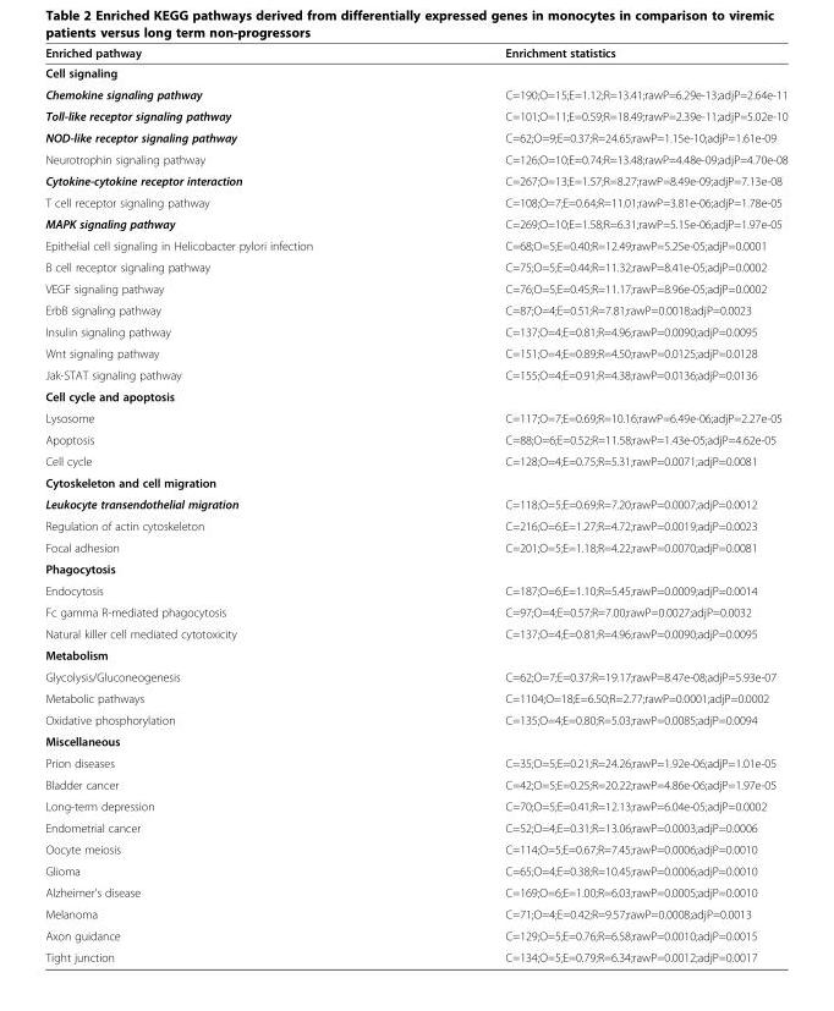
<table><thead><tr><td>Enriched pathway</td><td>Enrichment statistics</td></tr></thead><tbody><tr><td colspan="2">Cell signaling</td></tr><tr><td>Chemokine signaling pathway</td><td>C=190;O=15;E=1.12;R=13.41;rawP=6.29e-13;adjP=2.64e-11</td></tr><tr><td>Toll-like receptor signaling pathway</td><td>C=101;O=11;E=0.59;R=18.49;rawP=2.39e-11;adjP=5.02e-10</td></tr><tr><td>NOD-like receptor signaling pathway</td><td>C=62;O=9;E=0.37;R=24.65;rawP=1.15e-10;adjP=1.61e-09</td></tr><tr><td>Neurotrophin signaling pathway</td><td>C=126;O=10;E=0.74;R=13.48;rawP=4.48e-09;adjP=4.70e-08</td></tr><tr><td>Cytokine-cytokine receptor interaction</td><td>C=267;O=13;E=1.57;R=8.27;rawP=8.49e-09;adjP=7.13e-08</td></tr><tr><td>T cell receptor signaling pathway</td><td>C=108;O=7;E=0.64;R=11.01;rawP=3.81e-06;adjP=1.78e-05</td></tr><tr><td>MAPK signaling pathway</td><td>C=269;O=10;E=1.58;R=6.31;rawP=5.15e-06;adjP=1.97e-05</td></tr><tr><td>Epithelial cell signaling in Helicobacter pylori infection</td><td>C=68;O=5;E=0.40;R=12.49;rawP=5.25e-05;adjP=0.0001</td></tr><tr><td>B cell receptor signaling pathway</td><td>C=75;O=5;E=0.44;R=11.32;rawP=8.41e-05;adjP=0.0002</td></tr><tr><td>VEGF signaling pathway</td><td>C=76;O=5;E=0.45;R=11.17;rawP=8.96e-05;adjP=0.0002</td></tr><tr><td>ErbB signaling pathway</td><td>C=87;O=4;E=0.51;R=7.81;rawP=0.0018;adjP=0.0023</td></tr><tr><td>Insulin signaling pathway</td><td>C=137;O=4;E=0.81;R=4.96;rawP=0.0090;adjP=0.0095</td></tr><tr><td>Wnt signaling pathway</td><td>C=151;O=4;E=0.89;R=4.50;rawP=0.0125;adjP=0.0128</td></tr><tr><td>Jak-STAT signaling pathway</td><td>C=155;O=4;E=0.91;R=4.38;rawP=0.0136;adjP=0.0136</td></tr><tr><td colspan="2">Cell cycle and apoptosis</td></tr><tr><td>Lysosome</td><td>C=117;O=7;E=0.69;R=10.16;rawP=6.49e-06;adjP=2.27e-05</td></tr><tr><td>Apoptosis</td><td>C=88;O=6;E=0.52;R=11.58;rawP=1.43e-05;adjP=4.62e-05</td></tr><tr><td>Cell cycle</td><td>C=128;O=4;E=0.75;R=5.31;rawP=0.0071;adjP=0.0081</td></tr><tr><td colspan="2">Cytoskeleton and cell migration</td></tr><tr><td>Leukocyte transendothelial migration</td><td>C=118;O=5;E=0.69;R=7.20;rawP=0.0007;adjP=0.0012</td></tr><tr><td>Regulation of actin cytoskeleton</td><td>C=216;O=6;E=1.27;R=4.72;rawP=0.0019;adjP=0.0023</td></tr><tr><td>Focal adhesion</td><td>C=201;O=5;E=1.18;R=4.22;rawP=0.0070;adjP=0.0081</td></tr><tr><td colspan="2">Phagocytosis</td></tr><tr><td>Endocytosis</td><td>C=187;O=6;E=1.10;R=5.45;rawP=0.0009;adjP=0.0014</td></tr><tr><td>Fc gamma R-mediated phagocytosis</td><td>C=97;O=4;E=0.57;R=7.00;rawP=0.0027;adjP=0.0032</td></tr><tr><td>Natural killer cell mediated cytotoxicity</td><td>C=137;O=4;E=0.81;R=4.96;rawP=0.0090;adjP=0.0095</td></tr><tr><td colspan="2">Metabolism</td></tr><tr><td>Glycolysis/Gluconeogenesis</td><td>C=62;O=7;E=0.37;R=19.17;rawP=8.47e-08;adjP=5.93e-07</td></tr><tr><td>Metabolic pathways</td><td>C=1104;O=18;E=6.50;R=2.77;rawP=0.0001;adjP=0.0002</td></tr><tr><td>Oxidative phosphorylation</td><td>C=135;O=4;E=0.80;R=5.03;rawP=0.0085;adjP=0.0094</td></tr><tr><td colspan="2">Miscellaneous</td></tr><tr><td>Prion diseases</td><td>C=35;O=5;E=0.21;R=24.26;rawP=1.92e-06;adjP=1.01e-05</td></tr><tr><td>Bladder cancer</td><td>C=42;O=5;E=0.25;R=20.22;rawP=4.86e-06;adjP=1.97e-05</td></tr><tr><td>Long-term depression</td><td>C=70;O=5;E=0.41;R=12.13;rawP=6.04e-05;adjP=0.0002</td></tr><tr><td>Endometrial cancer</td><td>C=52;O=4;E=0.31;R=13.06;rawP=0.0003;adjP=0.0006</td></tr><tr><td>Oocyte meiosis</td><td>C=114;O=5;E=0.67;R=7.45;rawP=0.0006;adjP=0.0010</td></tr><tr><td>Glioma</td><td>C=65;O=4;E=0.38;R=10.45;rawP=0.0006;adjP=0.0010</td></tr><tr><td>Alzheimer&#x27;s disease</td><td>C=169;O=6;E=1.00;R=6.03;rawP=0.0005;adjP=0.0010</td></tr><tr><td>Melanoma</td><td>C=71;O=4;E=0.42;R=9.57;rawP=0.0008;adjP=0.0013</td></tr><tr><td>Axon guidance</td><td>C=129;O=5;E=0.76;R=6.58;rawP=0.0010;adjP=0.0015</td></tr><tr><td>Tight junction</td><td>C=134;O=5;E=0.79;R=6.34;rawP=0.0012;adjP=0.0017</td></tr></tbody></table>